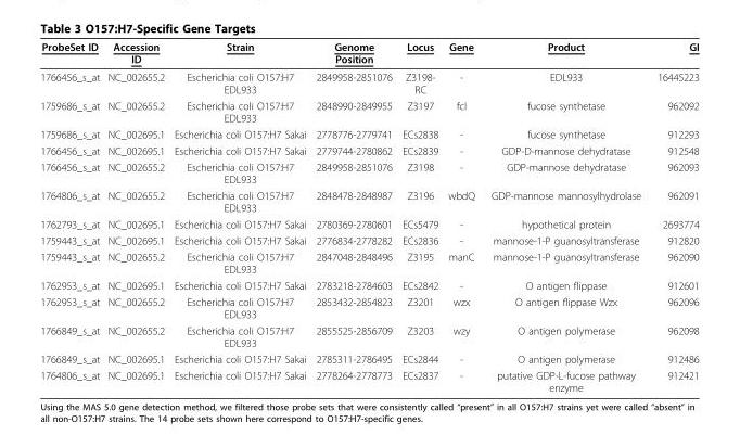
<table><thead><tr><td>ProbeSet ID</td><td>Accession ID</td><td>Strain</td><td>Genome Position</td><td>Locus</td><td>Gene</td><td>Product</td><td>GI</td></tr></thead><tbody><tr><td>1766456_s_at</td><td>NC_002655.2</td><td>Escherichia coli O157:H7 EDL933</td><td>2849958-2851076</td><td>Z3198- RC</td><td>-</td><td>EDL933</td><td>16445223</td></tr><tr><td>1759686_s_at</td><td>NC_002655.2</td><td>Escherichia coli O157:H7 EDL933</td><td>2848990-2849955</td><td>Z3197</td><td>fcI</td><td>fucose synthetase</td><td>962092</td></tr><tr><td>1759686_s_at</td><td>NC_002695.1</td><td>Escherichia coli O157:H7 Sakai</td><td>2778776-2779741</td><td>ECs2838</td><td>-</td><td>fucose synthetase</td><td>912293</td></tr><tr><td>1766456_s_at</td><td>NC_002695.1</td><td>Escherichia coli O157:H7 Sakai</td><td>2779744-2780862</td><td>ECs2839</td><td>-</td><td>GDP-D-mannose dehydratase</td><td>912548</td></tr><tr><td>1766456_s_at</td><td>NC_002655.2</td><td>Escherichia coli O157:H7 EDL933</td><td>2849958-2851076</td><td>Z3198</td><td>-</td><td>GDP-mannose dehydratase</td><td>962093</td></tr><tr><td>1764806_s_at</td><td>NC_002655.2</td><td>Escherichia coli O157:H7 EDL933</td><td>2848478-2848987</td><td>Z3196</td><td>wbdQ</td><td>GDP-mannose mannosylhydrolase</td><td>962091</td></tr><tr><td>1762793_s_at</td><td>NC_002695.1</td><td>Escherichia coli O157:H7 Sakai</td><td>2780369-2780601</td><td>ECs5479</td><td>-</td><td>hypothetical protein</td><td>2693774</td></tr><tr><td>1759443_s_at</td><td>NC_002695.1</td><td>Escherichia coli O157:H7 Sakai</td><td>2776834-2778282</td><td>ECs2836</td><td>-</td><td>mannose-1-P guanosyltransferase</td><td>912820</td></tr><tr><td>1759443_s_at</td><td>NC_002655.2</td><td>Escherichia coli O157:H7 EDL933</td><td>2847048-2848496</td><td>Z3195</td><td>manC</td><td>mannose-1-P guanosyltransferase</td><td>962090</td></tr><tr><td>1762953_s_at</td><td>NC_002695.1</td><td>Escherichia coli O157:H7 Sakai</td><td>2783218-2784603</td><td>ECs2842</td><td>-</td><td>O antigen flippase</td><td>912601</td></tr><tr><td>1762953_s_at</td><td>NC_002655.2</td><td>Escherichia coli O157:H7 EDL933</td><td>2853432-2854823</td><td>Z3201</td><td>wzx</td><td>O antigen flippase Wzx</td><td>962096</td></tr><tr><td>1766849_s_at</td><td>NC_002655.2</td><td>Escherichia coli O157:H7 EDL933</td><td>2855525-2856709</td><td>Z3203</td><td>wzy</td><td>O antigen polymerase</td><td>962098</td></tr><tr><td>1766849_s_at</td><td>NC_002695.1</td><td>Escherichia coli O157:H7 Sakai</td><td>2785311-2786495</td><td>ECs2844</td><td>-</td><td>O antigen polymerase</td><td>912486</td></tr><tr><td>1764806_s_at</td><td>NC_002695.1</td><td>Escherichia coli O157:H7 Sakai</td><td>2778264-2778773</td><td>ECs2837</td><td>-</td><td>putative GDP-L-fucose pathway enzyme</td><td>912421</td></tr></tbody></table>